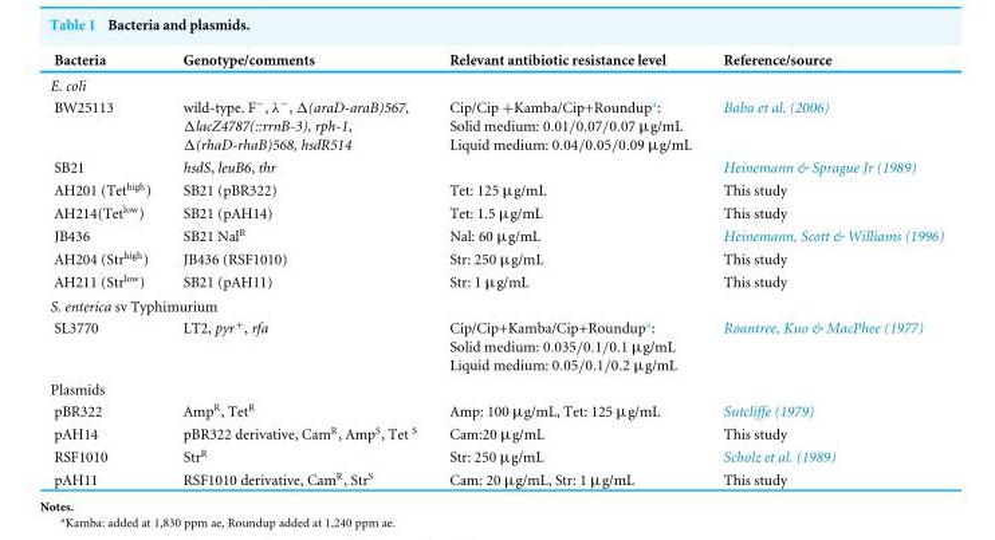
<table><thead><tr><td>Bacteria</td><td>Genotype/comments</td><td>Relevant antibiotic resistance level</td><td>Reference/source</td></tr></thead><tbody><tr><td colspan="4">E. coli</td></tr><tr><td>BW25113</td><td>wild-type. F<sup>−</sup>, λ<sup>−</sup>, Δ(araD-araB)567, ΔlacZ4787(::rrnB-3), rph-1, Δ(rhaD-rhaB)568, hsdR514</td><td>Cip/Cip +Kamba/Cip+Roundupa: Solid medium: 0.01/0.07/0.07 µg/mL Liquid medium: 0.04/0.05/0.09 µg/mL</td><td>Baba et al. (2006)</td></tr><tr><td>SB21</td><td>hsdS, leuB6, thr</td><td></td><td>Heinemann &amp; Sprague Jr (1989)</td></tr><tr><td>AH201 (Tet<sup>high</sup>)</td><td>SB21 (pBR322)</td><td>Tet: 125 µg/mL</td><td>This study</td></tr><tr><td>AH214(Tet<sup>low</sup>)</td><td>SB21 (pAH14)</td><td>Tet: 1.5 µg/mL</td><td>This study</td></tr><tr><td>JB436</td><td>SB21 Nal<sup>R</sup></td><td>Nal: 60 µg/mL</td><td>Heinemann, Scott &amp; Williams (1996)</td></tr><tr><td>AH204 (Str<sup>high</sup>)</td><td>JB436 (RSF1010)</td><td>Str: 250 µg/mL</td><td>This study</td></tr><tr><td>AH211 (Str<sup>low</sup>)</td><td>SB21 (pAH11)</td><td>Str: 1 µg/mL</td><td>This study</td></tr><tr><td colspan="4">S. enterica sv Typhimurium</td></tr><tr><td>SL3770</td><td>LT2, pyr<sup>+</sup>, rfa</td><td>Cip/Cip+Kamba/Cip+Roundupa: Solid medium: 0.035/0.1/0.1 µg/mL Liquid medium: 0.05/0.1/0.2 µg/mL</td><td>Roantree, Kuo &amp; MacPhee (1977)</td></tr><tr><td colspan="4">Plasmids</td></tr><tr><td>pBR322</td><td>Amp<sup>R</sup>, Tet<sup>R</sup></td><td>Amp: 100 µg/mL, Tet: 125 µg/mL</td><td>Sutcliffe (1979)</td></tr><tr><td>pAH14</td><td>pBR322 derivative, Cam<sup>R</sup>, Amp<sup>S</sup>, Tet <sup>S</sup></td><td>Cam:20 µg/mL</td><td>This study</td></tr><tr><td>RSF1010</td><td>Str<sup>R</sup></td><td>Str: 250 µg/mL</td><td>Scholz et al. (1989)</td></tr><tr><td>pAH11</td><td>RSF1010 derivative, Cam<sup>R</sup>, Str<sup>S</sup></td><td>Cam: 20 µg/mL, Str: 1 µg/mL</td><td>This study</td></tr></tbody></table>